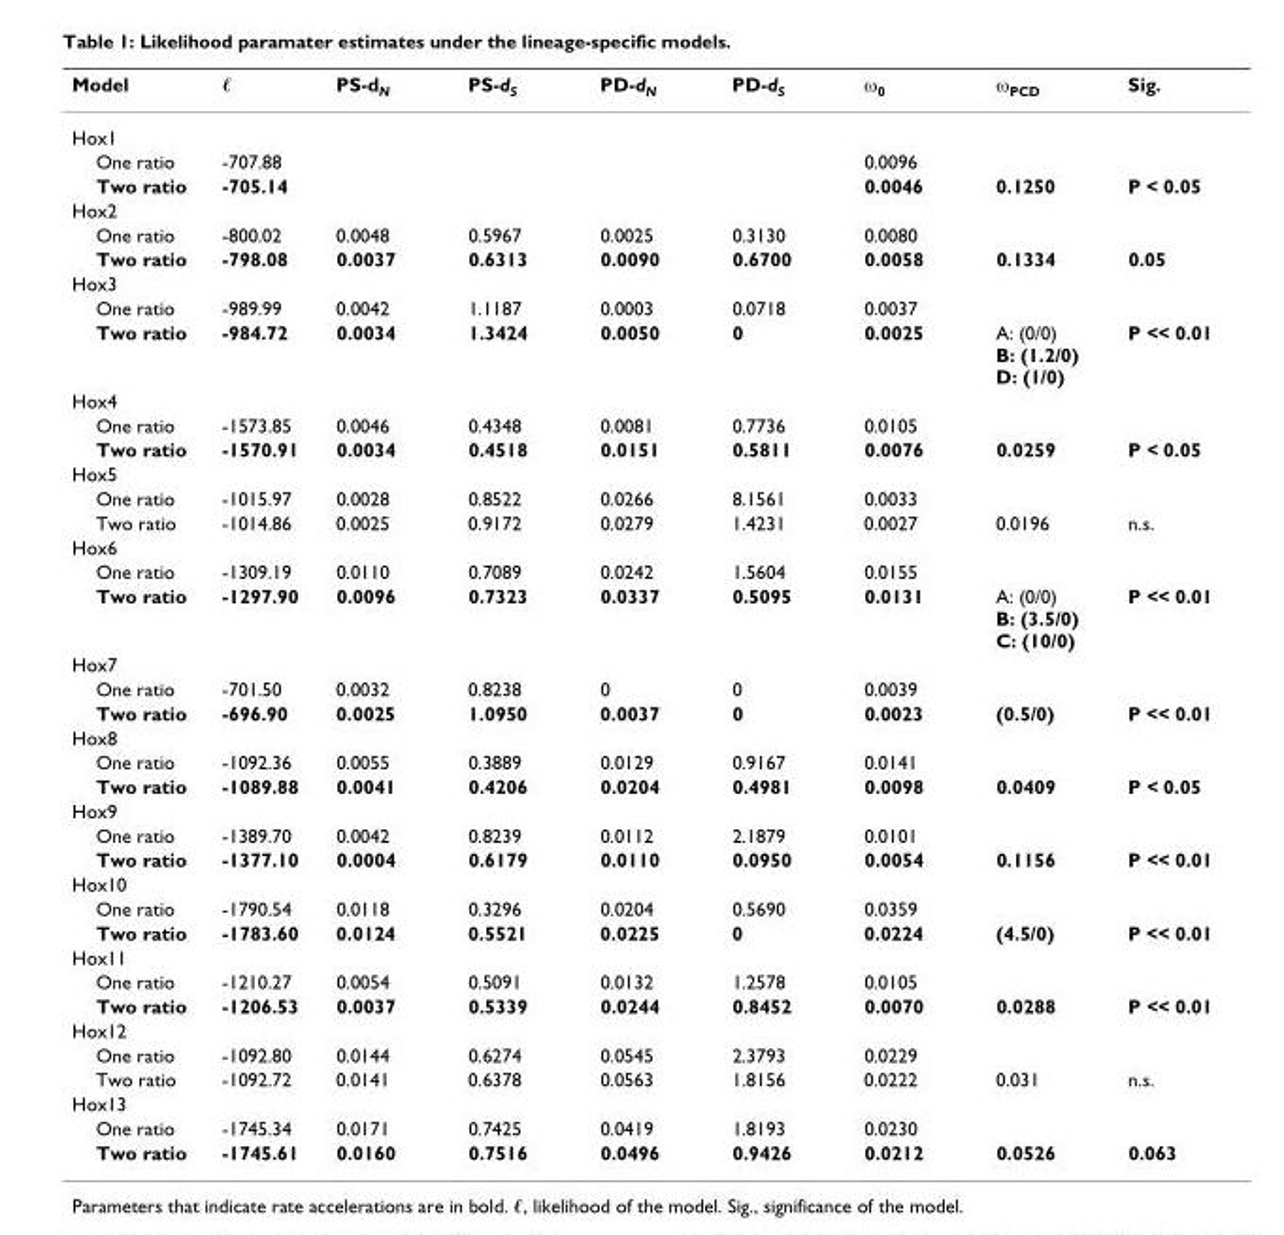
<table><thead><tr><td>Model</td><td>ℓ</td><td>PS-d<sub>N</sub></td><td>PS-d<sub>S</sub></td><td>PD-d<sub>N</sub></td><td>PD-d<sub>S</sub></td><td>ω<sub>0</sub></td><td>ω<sub>PCD</sub></td><td>Sig.</td></tr></thead><tbody><tr><td colspan="9">Hox1</td></tr><tr><td>One ratio</td><td>-707.88</td><td></td><td></td><td></td><td></td><td>0.0096</td><td></td><td></td></tr><tr><td>Two ratio</td><td>-705.14</td><td></td><td></td><td></td><td></td><td>0.0046</td><td>0.1250</td><td>P &lt; 0.05</td></tr><tr><td colspan="9">Hox2</td></tr><tr><td>One ratio</td><td>-800.02</td><td>0.0048</td><td>0.5967</td><td>0.0025</td><td>0.3130</td><td>0.0080</td><td></td><td></td></tr><tr><td>Two ratio</td><td>-798.08</td><td>0.0037</td><td>0.6313</td><td>0.0090</td><td>0.6700</td><td>0.0058</td><td>0.1334</td><td>0.05</td></tr><tr><td colspan="9">Hox3</td></tr><tr><td>One ratio</td><td>-989.99</td><td>0.0042</td><td>1.1187</td><td>0.0003</td><td>0.0718</td><td>0.0037</td><td></td><td></td></tr><tr><td>Two ratio</td><td>-984.72</td><td>0.0034</td><td>1.3424</td><td>0.0050</td><td>0</td><td>0.0025</td><td>A: (0/0) B: (1.2/0) D: (1/0)</td><td>P &lt;&lt; 0.01</td></tr><tr><td colspan="9">Hox4</td></tr><tr><td>One ratio</td><td>-1573.85</td><td>0.0046</td><td>0.4348</td><td>0.0081</td><td>0.7736</td><td>0.0105</td><td></td><td></td></tr><tr><td>Two ratio</td><td>-1570.91</td><td>0.0034</td><td>0.4518</td><td>0.0151</td><td>0.5811</td><td>0.0076</td><td>0.0259</td><td>P &lt; 0.05</td></tr><tr><td colspan="9">Hox5</td></tr><tr><td>One ratio</td><td>-1015.97</td><td>0.0028</td><td>0.8522</td><td>0.0266</td><td>8.1561</td><td>0.0033</td><td></td><td></td></tr><tr><td>Two ratio</td><td>-1014.86</td><td>0.0025</td><td>0.9172</td><td>0.0279</td><td>1.4231</td><td>0.0027</td><td>0.0196</td><td>n.s.</td></tr><tr><td colspan="9">Hox6</td></tr><tr><td>One ratio</td><td>-1309.19</td><td>0.0110</td><td>0.7089</td><td>0.0242</td><td>1.5604</td><td>0.0155</td><td></td><td></td></tr><tr><td>Two ratio</td><td>-1297.90</td><td>0.0096</td><td>0.7323</td><td>0.0337</td><td>0.5095</td><td>0.0131</td><td>A: (0/0) B: (3.5/0) C: (10/0)</td><td>P &lt;&lt; 0.01</td></tr><tr><td colspan="9">Hox7</td></tr><tr><td>One ratio</td><td>-701.50</td><td>0.0032</td><td>0.8238</td><td>0</td><td>0</td><td>0.0039</td><td></td><td></td></tr><tr><td>Two ratio</td><td>-696.90</td><td>0.0025</td><td>1.0950</td><td>0.0037</td><td>0</td><td>0.0023</td><td>(0.5/0)</td><td>P &lt;&lt; 0.01</td></tr><tr><td colspan="9">Hox8</td></tr><tr><td>One ratio</td><td>-1092.36</td><td>0.0055</td><td>0.3889</td><td>0.0129</td><td>0.9167</td><td>0.0141</td><td></td><td></td></tr><tr><td>Two ratio</td><td>-1089.88</td><td>0.0041</td><td>0.4206</td><td>0.0204</td><td>0.4981</td><td>0.0098</td><td>0.0409</td><td>P &lt; 0.05</td></tr><tr><td colspan="9">Hox9</td></tr><tr><td>One ratio</td><td>-1389.70</td><td>0.0042</td><td>0.8239</td><td>0.0112</td><td>2.1879</td><td>0.0101</td><td></td><td></td></tr><tr><td>Two ratio</td><td>-1377.10</td><td>0.0004</td><td>0.6179</td><td>0.0110</td><td>0.0950</td><td>0.0054</td><td>0.1156</td><td>P &lt;&lt; 0.01</td></tr><tr><td colspan="9">Hox10</td></tr><tr><td>One ratio</td><td>-1790.54</td><td>0.0118</td><td>0.3296</td><td>0.0204</td><td>0.5690</td><td>0.0359</td><td></td><td></td></tr><tr><td>Two ratio</td><td>-1783.60</td><td>0.0124</td><td>0.5521</td><td>0.0225</td><td>0</td><td>0.0224</td><td>(4.5/0)</td><td>P &lt;&lt; 0.01</td></tr><tr><td colspan="9">Hox11</td></tr><tr><td>One ratio</td><td>-1210.27</td><td>0.0054</td><td>0.5091</td><td>0.0132</td><td>1.2578</td><td>0.0105</td><td></td><td></td></tr><tr><td>Two ratio</td><td>-1206.53</td><td>0.0037</td><td>0.5339</td><td>0.0244</td><td>0.8452</td><td>0.0070</td><td>0.0288</td><td>P &lt;&lt; 0.01</td></tr><tr><td colspan="9">Hox12</td></tr><tr><td>One ratio</td><td>-1092.80</td><td>0.0144</td><td>0.6274</td><td>0.0545</td><td>2.3793</td><td>0.0229</td><td></td><td></td></tr><tr><td>Two ratio</td><td>-1092.72</td><td>0.0141</td><td>0.6378</td><td>0.0563</td><td>1.8156</td><td>0.0222</td><td>0.031</td><td>n.s.</td></tr><tr><td colspan="9">Hox13</td></tr><tr><td>One ratio</td><td>-1745.34</td><td>0.0171</td><td>0.7425</td><td>0.0419</td><td>1.8193</td><td>0.0230</td><td></td><td></td></tr><tr><td>Two ratio</td><td>-1745.61</td><td>0.0160</td><td>0.7516</td><td>0.0496</td><td>0.9426</td><td>0.0212</td><td>0.0526</td><td>0.063</td></tr></tbody></table>